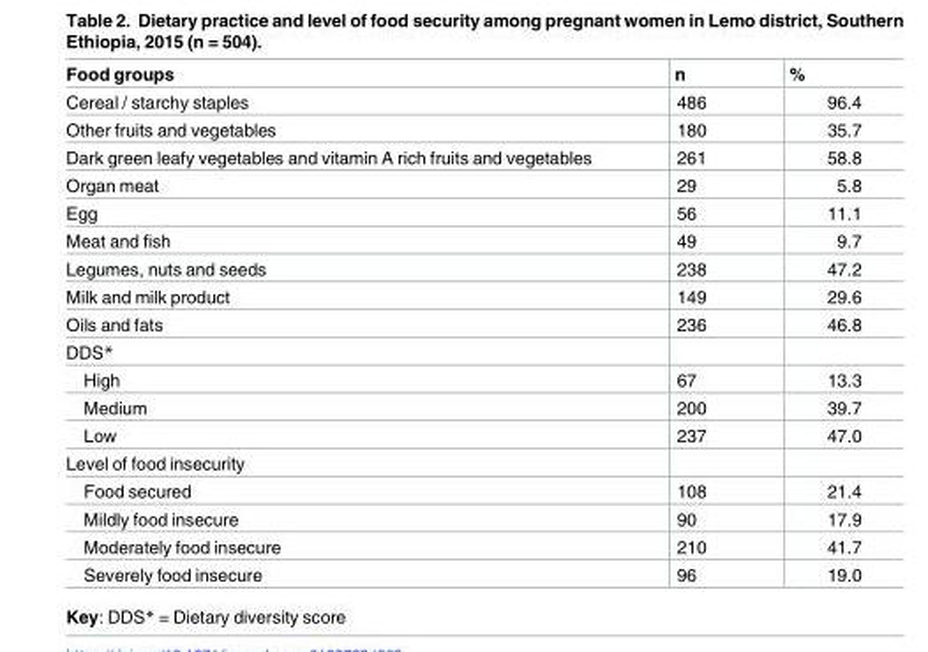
<table><thead><tr><td>Food groups</td><td>n</td><td>%</td></tr></thead><tbody><tr><td>Cereal / starchy staples</td><td>486</td><td>96.4</td></tr><tr><td>Other fruits and vegetables</td><td>180</td><td>35.7</td></tr><tr><td>Dark green leafy vegetables and vitamin A rich fruits and vegetables</td><td>261</td><td>58.8</td></tr><tr><td>Organ meat</td><td>29</td><td>5.8</td></tr><tr><td>Egg</td><td>56</td><td>11.1</td></tr><tr><td>Meat and fish</td><td>49</td><td>9.7</td></tr><tr><td>Legumes, nuts and seeds</td><td>238</td><td>47.2</td></tr><tr><td>Milk and milk product</td><td>149</td><td>29.6</td></tr><tr><td>Oils and fats</td><td>236</td><td>46.8</td></tr><tr><td colspan="3">DDS*</td></tr><tr><td>High</td><td>67</td><td>13.3</td></tr><tr><td>Medium</td><td>200</td><td>39.7</td></tr><tr><td>Low</td><td>237</td><td>47.0</td></tr><tr><td colspan="3">Level of food insecurity</td></tr><tr><td>Food secured</td><td>108</td><td>21.4</td></tr><tr><td>Mildly food insecure</td><td>90</td><td>17.9</td></tr><tr><td>Moderately food insecure</td><td>210</td><td>41.7</td></tr><tr><td>Severely food insecure</td><td>96</td><td>19.0</td></tr></tbody></table>